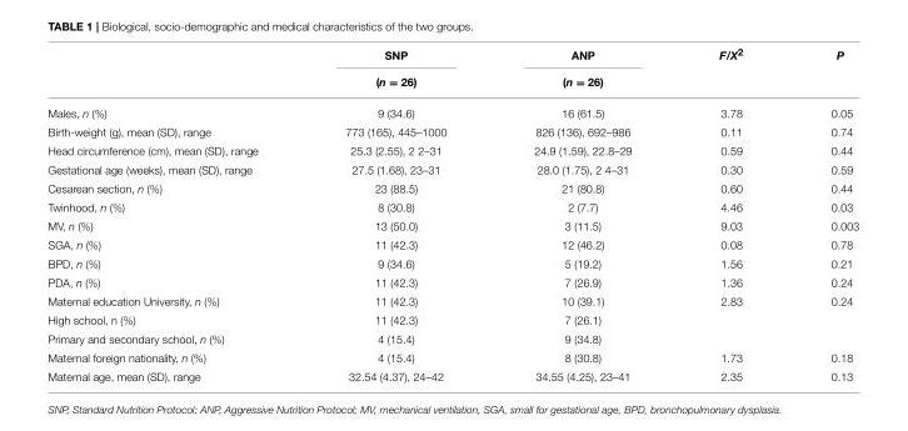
<table><thead><tr><td rowspan="2"></td><td rowspan="2">SNP (n = 26)</td><td rowspan="2">ANP (n = 26)</td><td rowspan="2">F/X<sup>2</sup></td><td rowspan="2">P</td></tr><tr></tr></thead><tbody><tr><td>Males, n (%)</td><td>9 (34.6)</td><td>16 (61.5)</td><td>3.78</td><td>0.05</td></tr><tr><td>Birth-weight (g), mean (SD), range</td><td>773 (165), 445–1000</td><td>826 (136), 692–986</td><td>0.11</td><td>0.74</td></tr><tr><td>Head circumference (cm), mean (SD), range</td><td>25.3 (2.55), 2 2–31</td><td>24.9 (1.59), 22.8–29</td><td>0.59</td><td>0.44</td></tr><tr><td>Gestational age (weeks), mean (SD), range</td><td>27.5 (1.68), 23–31</td><td>28.0 (1.75), 2 4–31</td><td>0.30</td><td>0.59</td></tr><tr><td>Cesarean section, n (%)</td><td>23 (88.5)</td><td>21 (80.8)</td><td>0.60</td><td>0.44</td></tr><tr><td>Twinhood, n (%)</td><td>8 (30.8)</td><td>2 (7.7)</td><td>4.46</td><td>0.03</td></tr><tr><td>MV, n (%)</td><td>13 (50.0)</td><td>3 (11.5)</td><td>9.03</td><td>0.003</td></tr><tr><td>SGA, n (%)</td><td>11 (42.3)</td><td>12 (46.2)</td><td>0.08</td><td>0.78</td></tr><tr><td>BPD, n (%)</td><td>9 (34.6)</td><td>5 (19.2)</td><td>1.56</td><td>0.21</td></tr><tr><td>PDA, n (%)</td><td>11 (42.3)</td><td>7 (26.9)</td><td>1.36</td><td>0.24</td></tr><tr><td>Maternal education University, n (%)</td><td>11 (42.3)</td><td>10 (39.1)</td><td>2.83</td><td>0.24</td></tr><tr><td>High school, n (%)</td><td>11 (42.3)</td><td>7 (26.1)</td><td></td><td></td></tr><tr><td>Primary and secondary school, n (%)</td><td>4 (15.4)</td><td>9 (34.8)</td><td></td><td></td></tr><tr><td>Maternal foreign nationality, n (%)</td><td>4 (15.4)</td><td>8 (30.8)</td><td>1.73</td><td>0.18</td></tr><tr><td>Maternal age, mean (SD), range</td><td>32.54 (4.37), 24–42</td><td>34.55 (4.25), 23–41</td><td>2.35</td><td>0.13</td></tr></tbody></table>